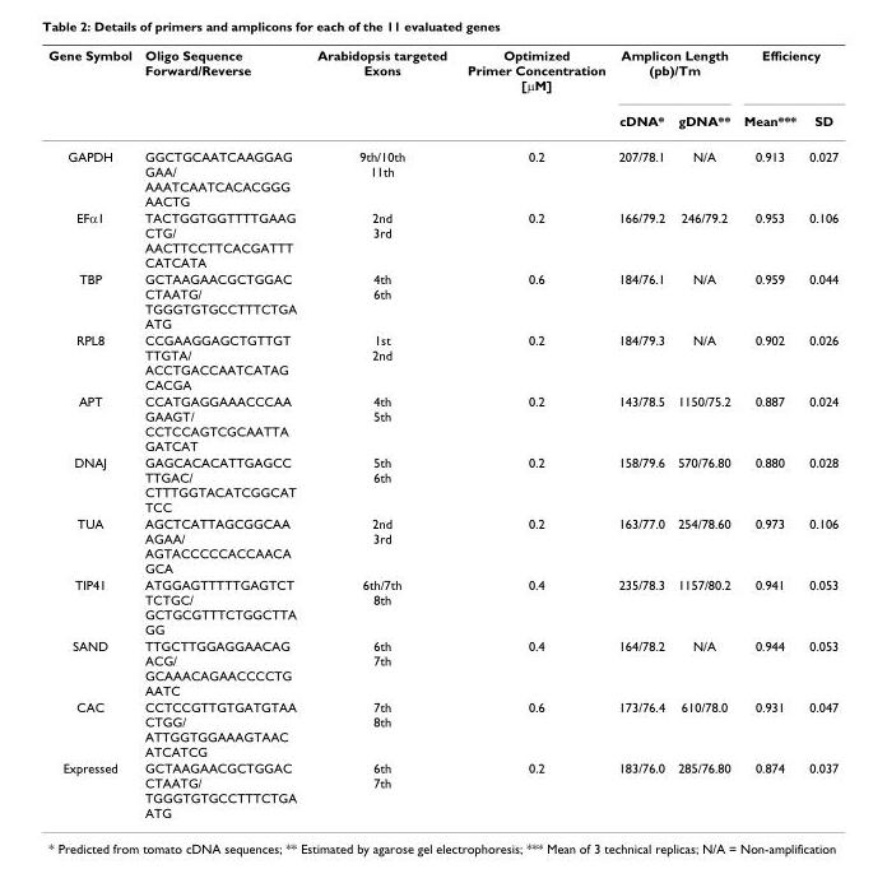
<table><thead><tr><td rowspan="2">Gene Symbol</td><td rowspan="2">Oligo Sequence Forward/Reverse</td><td rowspan="2">Arabidopsis targeted Exons</td><td rowspan="2">Optimized Primer Concentration [μM]</td><td colspan="2">Amplicon Length (pb)/Tm</td><td colspan="2">Efficiency</td></tr><tr><td>cDNA*</td><td>gDNA**</td><td>Mean***</td><td>SD</td></tr></thead><tbody><tr><td>GAPDH</td><td>GGCTGCAATCAAGGAG GAA/ AAATCAATCACACGGG AACTG</td><td>9th/10th 11th</td><td>0.2</td><td>207/78.1</td><td>N/A</td><td>0.913</td><td>0.027</td></tr><tr><td>EFα1</td><td>TACTGGTGGTTTTGAAG CTG/ AACTTCCTTCACGATTT CATCATA</td><td>2nd 3rd</td><td>0.2</td><td>166/79.2</td><td>246/79.2</td><td>0.953</td><td>0.106</td></tr><tr><td>TBP</td><td>GCTAAGAACGCTGGAC CTAATG/ TGGGTGTGCCTTTCTGA ATG</td><td>4th 6th</td><td>0.6</td><td>184/76.1</td><td>N/A</td><td>0.959</td><td>0.044</td></tr><tr><td>RPL8</td><td>CCGAAGGAGCTGTTGT TTGTA/ ACCTGACCAATCATAG CACGA</td><td>1st 2nd</td><td>0.2</td><td>184/79.3</td><td>N/A</td><td>0.902</td><td>0.026</td></tr><tr><td>APT</td><td>CCATGAGGAAACCCAA GAAGT/ CCTCCAGTCGCAATTA GATCAT</td><td>4th 5th</td><td>0.2</td><td>143/78.5</td><td>1150/75.2</td><td>0.887</td><td>0.024</td></tr><tr><td>DNAJ</td><td>GAGCACACATTGAGCC TTGAC/ CTTTGGTACATCGGCAT TCC</td><td>5th 6th</td><td>0.2</td><td>158/79.6</td><td>570/76.80</td><td>0.880</td><td>0.028</td></tr><tr><td>TUA</td><td>AGCTCATTAGCGGCAA AGAA/ AGTACCCCCACCAACA GCA</td><td>2nd 3rd</td><td>0.2</td><td>163/77.0</td><td>254/78.60</td><td>0.973</td><td>0.106</td></tr><tr><td>TIP41</td><td>ATGGAGTTTTTGAGTCT TCTGC/ GCTGCGTTTCTGGCTTA GG</td><td>6th/7th 8th</td><td>0.4</td><td>235/78.3</td><td>1157/80.2</td><td>0.941</td><td>0.053</td></tr><tr><td>SAND</td><td>TTGCTTGGAGGAACAG ACG/ GCAAACAGAACCCCTG AATC</td><td>6th 7th</td><td>0.4</td><td>164/78.2</td><td>N/A</td><td>0.944</td><td>0.053</td></tr><tr><td>CAC</td><td>CCTCCGTTGTGATGTAA CTGG/ ATTGGTGGAAAGTAAC ATCATCG</td><td>7th 8th</td><td>0.6</td><td>173/76.4</td><td>610/78.0</td><td>0.931</td><td>0.047</td></tr><tr><td>Expressed</td><td>GCTAAGAACGCTGGAC CTAATG/ TGGGTGTGCCTTTCTGA ATG</td><td>6th 7th</td><td>0.2</td><td>183/76.0</td><td>285/76.80</td><td>0.874</td><td>0.037</td></tr></tbody></table>